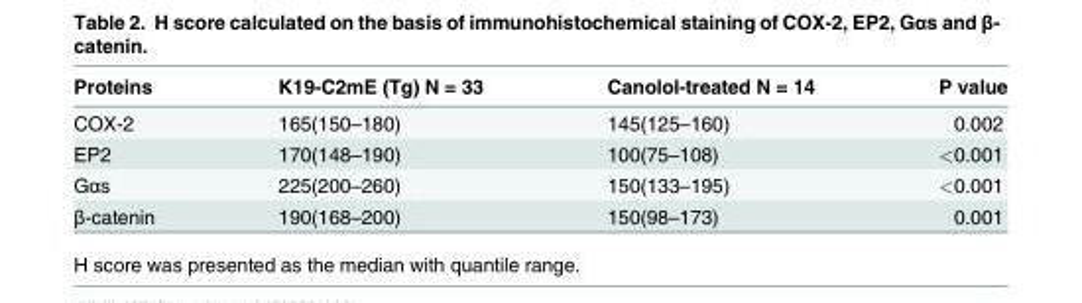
<table><thead><tr><td>Proteins</td><td>K19-C2mE (Tg) N = 33</td><td>Canolol-treated N = 14</td><td>P value</td></tr></thead><tbody><tr><td>COX-2</td><td>165(150–180)</td><td>145(125–160)</td><td>0.002</td></tr><tr><td>EP2</td><td>170(148–190)</td><td>100(75–108)</td><td>&lt;0.001</td></tr><tr><td>Gαs</td><td>225(200–260)</td><td>150(133–195)</td><td>&lt;0.001</td></tr><tr><td>β-catenin</td><td>190(168–200)</td><td>150(98–173)</td><td>0.001</td></tr></tbody></table>